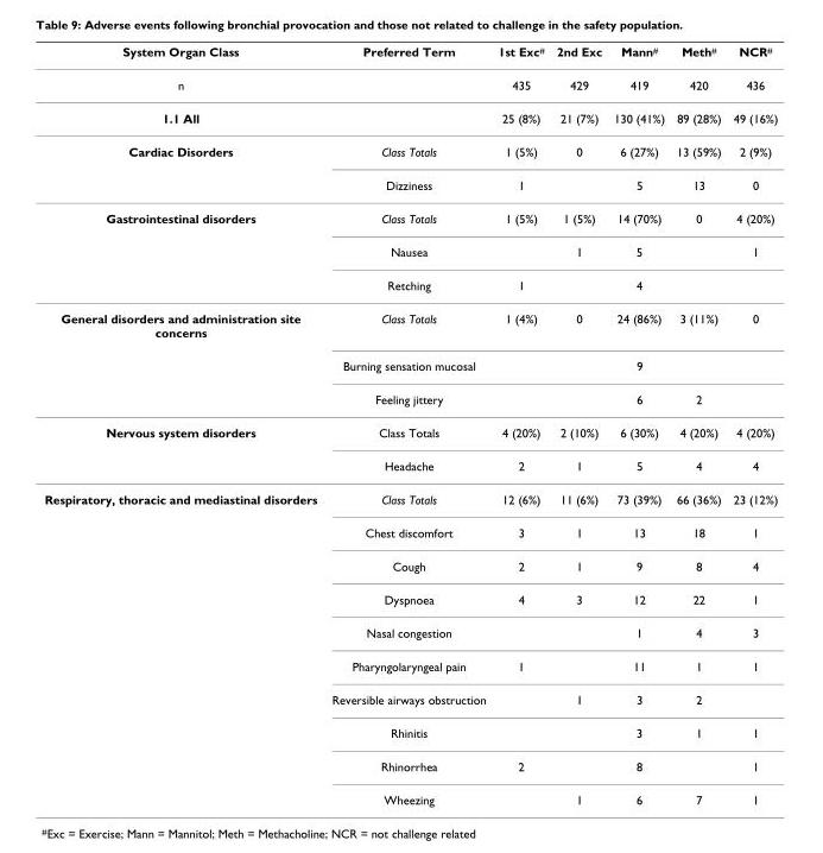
<table><thead><tr><td>System Organ Class</td><td>Preferred Term</td><td>1st Exc<sup>#</sup></td><td>2nd Exc</td><td>Mann<sup>#</sup></td><td>Meth<sup>#</sup></td><td>NCR<sup>#</sup></td></tr></thead><tbody><tr><td>n</td><td></td><td>435</td><td>429</td><td>419</td><td>420</td><td>436</td></tr><tr><td>1.1 All</td><td></td><td>25 (8%)</td><td>21 (7%)</td><td>130 (41%)</td><td>89 (28%)</td><td>49 (16%)</td></tr><tr><td rowspan="2">Cardiac Disorders</td><td>Class Totals</td><td>1 (5%)</td><td>0</td><td>6 (27%)</td><td>13 (59%)</td><td>2 (9%)</td></tr><tr><td>Dizziness</td><td>1</td><td></td><td>5</td><td>13</td><td>0</td></tr><tr><td rowspan="3">Gastrointestinal disorders</td><td>Class Totals</td><td>1 (5%)</td><td>1 (5%)</td><td>14 (70%)</td><td>0</td><td>4 (20%)</td></tr><tr><td>Nausea</td><td></td><td>1</td><td>5</td><td></td><td>1</td></tr><tr><td>Retching</td><td>1</td><td></td><td>4</td><td></td><td></td></tr><tr><td rowspan="3">General disorders and administration site concerns</td><td>Class Totals</td><td>1 (4%)</td><td>0</td><td>24 (86%)</td><td>3 (11%)</td><td>0</td></tr><tr><td>Burning sensation mucosal</td><td></td><td></td><td>9</td><td></td><td></td></tr><tr><td>Feeling jittery</td><td></td><td></td><td>6</td><td>2</td><td></td></tr><tr><td rowspan="2">Nervous system disorders</td><td>Class Totals</td><td>4 (20%)</td><td>2 (10%)</td><td>6 (30%)</td><td>4 (20%)</td><td>4 (20%)</td></tr><tr><td>Headache</td><td>2</td><td>1</td><td>5</td><td>4</td><td>4</td></tr><tr><td rowspan="10">Respiratory, thoracic and mediastinal disorders</td><td>Class Totals</td><td>12 (6%)</td><td>11 (6%)</td><td>73 (39%)</td><td>66 (36%)</td><td>23 (12%)</td></tr><tr><td>Chest discomfort</td><td>3</td><td>1</td><td>13</td><td>18</td><td>1</td></tr><tr><td>Cough</td><td>2</td><td>1</td><td>9</td><td>8</td><td>4</td></tr><tr><td>Dyspnoea</td><td>4</td><td>3</td><td>12</td><td>22</td><td>1</td></tr><tr><td>Nasal congestion</td><td></td><td></td><td>1</td><td>4</td><td>3</td></tr><tr><td>Pharyngolaryngeal pain</td><td>1</td><td></td><td>11</td><td>1</td><td>1</td></tr><tr><td>Reversible airways obstruction</td><td></td><td>1</td><td>3</td><td>2</td><td></td></tr><tr><td>Rhinitis</td><td></td><td></td><td>3</td><td>1</td><td>1</td></tr><tr><td>Rhinorrhea</td><td>2</td><td></td><td>8</td><td></td><td>1</td></tr><tr><td>Wheezing</td><td></td><td>1</td><td>6</td><td>7</td><td>1</td></tr></tbody></table>